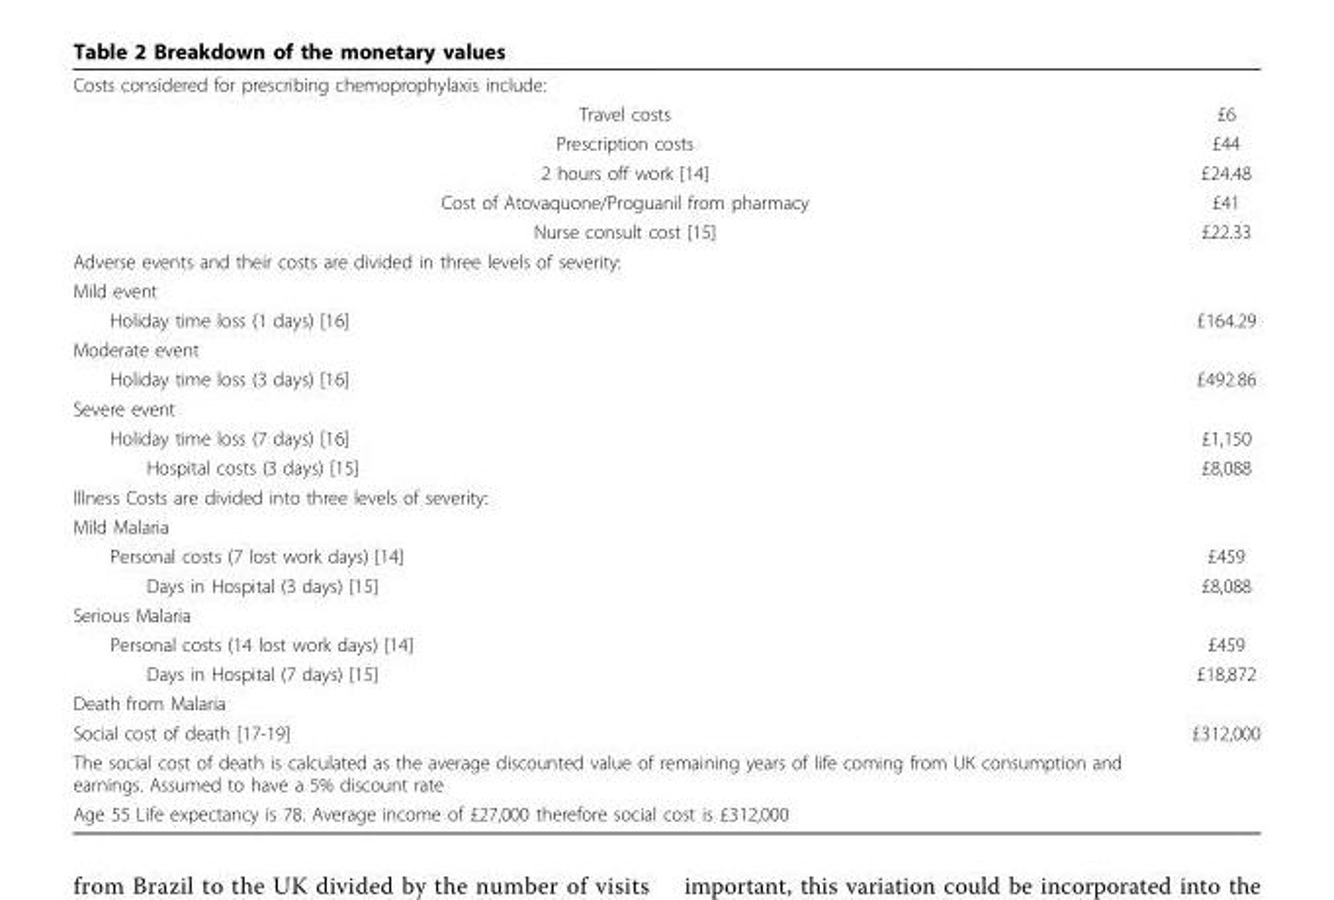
<table><tbody><tr><td colspan="2">Costs considered for prescribing chemoprophylaxis include:</td></tr><tr><td>Travel costs</td><td>£6</td></tr><tr><td>Prescription costs</td><td>£44</td></tr><tr><td>2 hours off work [14]</td><td>£24.48</td></tr><tr><td>Cost of Atovaquone/Proguanil from pharmacy</td><td>£41</td></tr><tr><td>Nurse consult cost [15]</td><td>£22.33</td></tr><tr><td colspan="2">Adverse events and their costs are divided in three levels of severity:</td></tr><tr><td colspan="2">Mild event</td></tr><tr><td>Holiday time loss (1 days) [16]</td><td>£164.29</td></tr><tr><td colspan="2">Moderate event</td></tr><tr><td>Holiday time loss (3 days) [16]</td><td>£492.86</td></tr><tr><td colspan="2">Severe event</td></tr><tr><td>Holiday time loss (7 days) [16]</td><td>£1,150</td></tr><tr><td>Hospital costs (3 days) [15]</td><td>£8,088</td></tr><tr><td colspan="2">Illness Costs are divided into three levels of severity:</td></tr><tr><td colspan="2">Mild Malaria</td></tr><tr><td>Personal costs (7 lost work days) [14]</td><td>£459</td></tr><tr><td>Days in Hospital (3 days) [15]</td><td>£8,088</td></tr><tr><td colspan="2">Serious Malaria</td></tr><tr><td>Personal costs (14 lost work days) [14]</td><td>£459</td></tr><tr><td>Days in Hospital (7 days) [15]</td><td>£18,872</td></tr><tr><td colspan="2">Death from Malaria</td></tr><tr><td>Social cost of death [17-19]</td><td>£312,000</td></tr><tr><td colspan="2">The social cost of death is calculated as the average discounted value of remaining years of life coming from UK consumption and earnings. Assumed to have a 5% discount rate</td></tr><tr><td>Age 55 Life expectancy is 78. Average income of £27,000 therefore social cost is £312,000</td><td></td></tr></tbody></table>